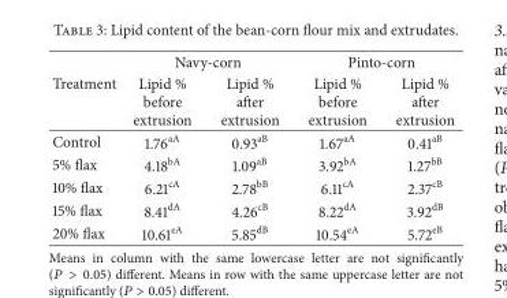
<table><thead><tr><td rowspan="2">Treatment</td><td colspan="2">Navy-corn</td><td colspan="2">Pinto-corn</td></tr><tr><td>Lipid % before extrusion</td><td>Lipid % after extrusion</td><td>Lipid % before extrusion</td><td>Lipid % after extrusion</td></tr></thead><tbody><tr><td>Control</td><td>1.76<sup>aA</sup></td><td>0.93<sup>aB</sup></td><td>1.67<sup>aA</sup></td><td>0.41<sup>aB</sup></td></tr><tr><td>5% flax</td><td>4.18<sup>bA</sup></td><td>1.09<sup>aB</sup></td><td>3.92<sup>bA</sup></td><td>1.27<sup>bB</sup></td></tr><tr><td>10% flax</td><td>6.21<sup>cA</sup></td><td>2.78<sup>bB</sup></td><td>6.11<sup>cA</sup></td><td>2.37<sup>cB</sup></td></tr><tr><td>15% flax</td><td>8.41<sup>dA</sup></td><td>4.26<sup>cB</sup></td><td>8.22<sup>dA</sup></td><td>3.92<sup>dB</sup></td></tr><tr><td>20% flax</td><td>10.61<sup>eA</sup></td><td>5.85<sup>dB</sup></td><td>10.54<sup>eA</sup></td><td>5.72<sup>eB</sup></td></tr></tbody></table>